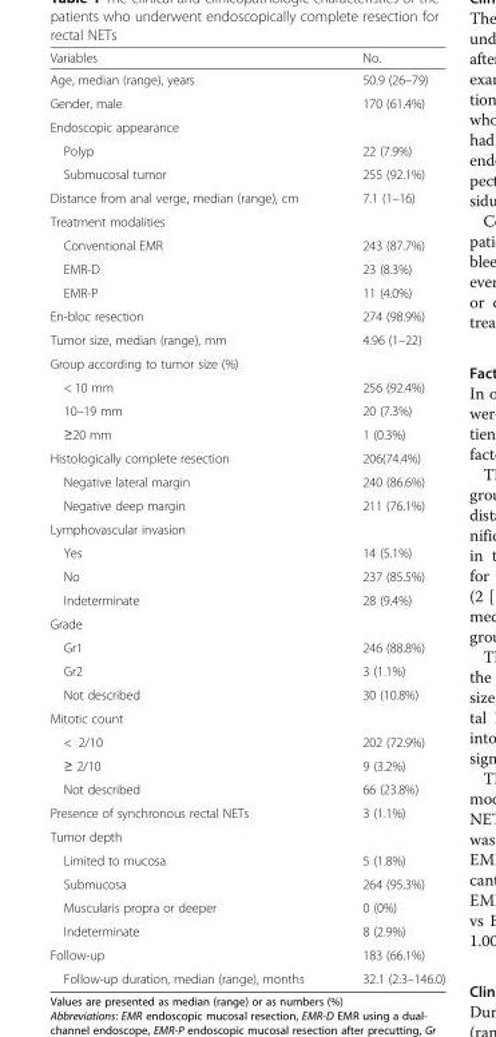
<table><thead><tr><td>Variables</td><td>No.</td></tr></thead><tbody><tr><td>Age, median (range), years</td><td>50.9 (26–79)</td></tr><tr><td>Gender, male</td><td>170 (61.4%)</td></tr><tr><td colspan="2">Endoscopic appearance</td></tr><tr><td>Polyp</td><td>22 (7.9%)</td></tr><tr><td>Submucosal tumor</td><td>255 (92.1%)</td></tr><tr><td>Distance from anal verge, median (range), cm</td><td>7.1 (1–16)</td></tr><tr><td colspan="2">Treatment modalities</td></tr><tr><td>Conventional EMR</td><td>243 (87.7%)</td></tr><tr><td>EMR-D</td><td>23 (8.3%)</td></tr><tr><td>EMR-P</td><td>11 (4.0%)</td></tr><tr><td>En-bloc resection</td><td>274 (98.9%)</td></tr><tr><td>Tumor size, median (range), mm</td><td>4.96 (1–22)</td></tr><tr><td colspan="2">Group according to tumor size (%)</td></tr><tr><td>&lt; 10 mm</td><td>256 (92.4%)</td></tr><tr><td>10–19 mm</td><td>20 (7.3%)</td></tr><tr><td>≥20 mm</td><td>1 (0.3%)</td></tr><tr><td>Histologically complete resection</td><td>206(74.4%)</td></tr><tr><td>Negative lateral margin</td><td>240 (86.6%)</td></tr><tr><td>Negative deep margin</td><td>211 (76.1%)</td></tr><tr><td colspan="2">Lymphovascular invasion</td></tr><tr><td>Yes</td><td>14 (5.1%)</td></tr><tr><td>No</td><td>237 (85.5%)</td></tr><tr><td>Indeterminate</td><td>28 (9.4%)</td></tr><tr><td colspan="2">Grade</td></tr><tr><td>Gr1</td><td>246 (88.8%)</td></tr><tr><td>Gr2</td><td>3 (1.1%)</td></tr><tr><td>Not described</td><td>30 (10.8%)</td></tr><tr><td colspan="2">Mitotic count</td></tr><tr><td>&lt; 2/10</td><td>202 (72.9%)</td></tr><tr><td>≥ 2/10</td><td>9 (3.2%)</td></tr><tr><td>Not described</td><td>66 (23.8%)</td></tr><tr><td>Presence of synchronous rectal NETs</td><td>3 (1.1%)</td></tr><tr><td colspan="2">Tumor depth</td></tr><tr><td>Limited to mucosa</td><td>5 (1.8%)</td></tr><tr><td>Submucosa</td><td>264 (95.3%)</td></tr><tr><td>Muscularis propra or deeper</td><td>0 (0%)</td></tr><tr><td>Indeterminate</td><td>8 (2.9%)</td></tr><tr><td>Follow-up</td><td>183 (66.1%)</td></tr><tr><td>Follow-up duration, median (range), months</td><td>32.1 (2.3–146.0)</td></tr></tbody></table>